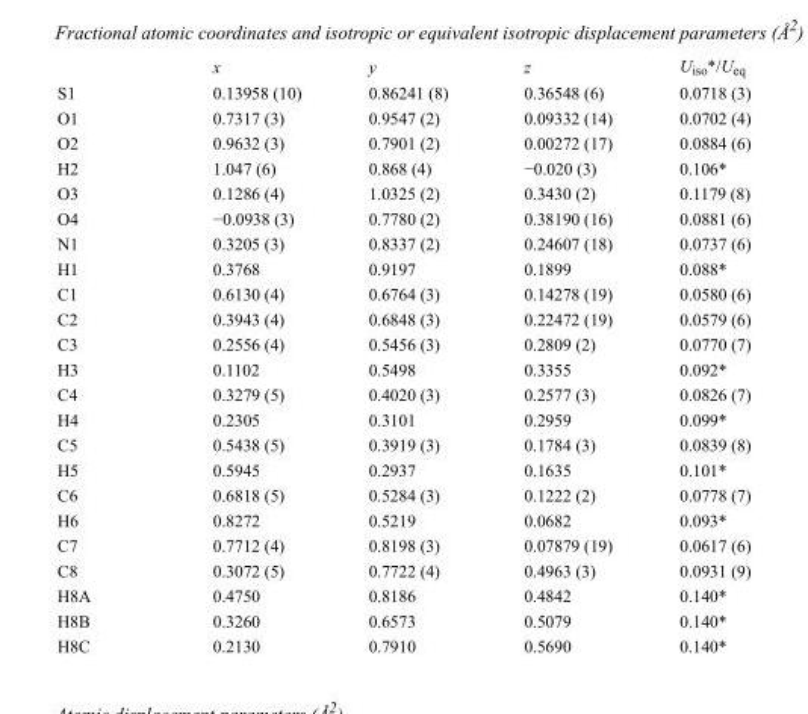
<table><thead><tr><td></td><td>x</td><td>y</td><td>z</td><td>U<sub>iso</sub>*/U<sub>eq</sub></td></tr></thead><tbody><tr><td>S1</td><td>0.13958 (10)</td><td>0.86241 (8)</td><td>0.36548 (6)</td><td>0.0718 (3)</td></tr><tr><td>O1</td><td>0.7317 (3)</td><td>0.9547 (2)</td><td>0.09332 (14)</td><td>0.0702 (4)</td></tr><tr><td>O2</td><td>0.9632 (3)</td><td>0.7901 (2)</td><td>0.00272 (17)</td><td>0.0884 (6)</td></tr><tr><td>H2</td><td>1.047 (6)</td><td>0.868 (4)</td><td>−0.020 (3)</td><td>0.106*</td></tr><tr><td>O3</td><td>0.1286 (4)</td><td>1.0325 (2)</td><td>0.3430 (2)</td><td>0.1179 (8)</td></tr><tr><td>O4</td><td>−0.0938 (3)</td><td>0.7780 (2)</td><td>0.38190 (16)</td><td>0.0881 (6)</td></tr><tr><td>N1</td><td>0.3205 (3)</td><td>0.8337 (2)</td><td>0.24607 (18)</td><td>0.0737 (6)</td></tr><tr><td>H1</td><td>0.3768</td><td>0.9197</td><td>0.1899</td><td>0.088*</td></tr><tr><td>C1</td><td>0.6130 (4)</td><td>0.6764 (3)</td><td>0.14278 (19)</td><td>0.0580 (6)</td></tr><tr><td>C2</td><td>0.3943 (4)</td><td>0.6848 (3)</td><td>0.22472 (19)</td><td>0.0579 (6)</td></tr><tr><td>C3</td><td>0.2556 (4)</td><td>0.5456 (3)</td><td>0.2809 (2)</td><td>0.0770 (7)</td></tr><tr><td>H3</td><td>0.1102</td><td>0.5498</td><td>0.3355</td><td>0.092*</td></tr><tr><td>C4</td><td>0.3279 (5)</td><td>0.4020 (3)</td><td>0.2577 (3)</td><td>0.0826 (7)</td></tr><tr><td>H4</td><td>0.2305</td><td>0.3101</td><td>0.2959</td><td>0.099*</td></tr><tr><td>C5</td><td>0.5438 (5)</td><td>0.3919 (3)</td><td>0.1784 (3)</td><td>0.0839 (8)</td></tr><tr><td>H5</td><td>0.5945</td><td>0.2937</td><td>0.1635</td><td>0.101*</td></tr><tr><td>C6</td><td>0.6818 (5)</td><td>0.5284 (3)</td><td>0.1222 (2)</td><td>0.0778 (7)</td></tr><tr><td>H6</td><td>0.8272</td><td>0.5219</td><td>0.0682</td><td>0.093*</td></tr><tr><td>C7</td><td>0.7712 (4)</td><td>0.8198 (3)</td><td>0.07879 (19)</td><td>0.0617 (6)</td></tr><tr><td>C8</td><td>0.3072 (5)</td><td>0.7722 (4)</td><td>0.4963 (3)</td><td>0.0931 (9)</td></tr><tr><td>H8A</td><td>0.4750</td><td>0.8186</td><td>0.4842</td><td>0.140*</td></tr><tr><td>H8B</td><td>0.3260</td><td>0.6573</td><td>0.5079</td><td>0.140*</td></tr><tr><td>H8C</td><td>0.2130</td><td>0.7910</td><td>0.5690</td><td>0.140*</td></tr></tbody></table>